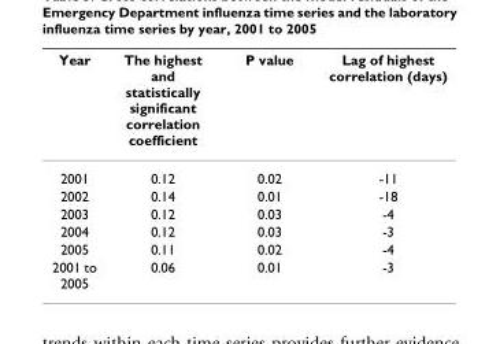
<table><thead><tr><td>Year</td><td>The highest and statistically significant correlation coefficient</td><td>P value</td><td>Lag of highest correlation (days)</td></tr></thead><tbody><tr><td>2001</td><td>0.12</td><td>0.02</td><td>-11</td></tr><tr><td>2002</td><td>0.14</td><td>0.01</td><td>-18</td></tr><tr><td>2003</td><td>0.12</td><td>0.03</td><td>-4</td></tr><tr><td>2004</td><td>0.12</td><td>0.03</td><td>-3</td></tr><tr><td>2005</td><td>0.11</td><td>0.02</td><td>-4</td></tr><tr><td>2001 to 2005</td><td>0.06</td><td>0.01</td><td>-3</td></tr></tbody></table>